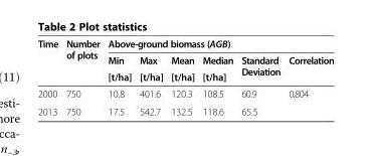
<table><thead><tr><td rowspan="3">Time</td><td rowspan="3">Number of plots</td><td colspan="6">Above-ground biomass (AGB)</td></tr><tr><td rowspan="2">Min [t/ha]</td><td rowspan="2">Max [t/ha]</td><td rowspan="2">Mean [t/ha]</td><td rowspan="2">Median [t/ha]</td><td rowspan="2">Standard Deviation</td><td rowspan="2">Correlation</td></tr><tr></tr></thead><tbody><tr><td>2000</td><td>750</td><td>10.8</td><td>401.6</td><td>120.3</td><td>108.5</td><td>60.9</td><td rowspan="2">0.804</td></tr><tr><td>2013</td><td>750</td><td>17.5</td><td>542.7</td><td>132.5</td><td>118.6</td><td>65.5</td></tr></tbody></table>